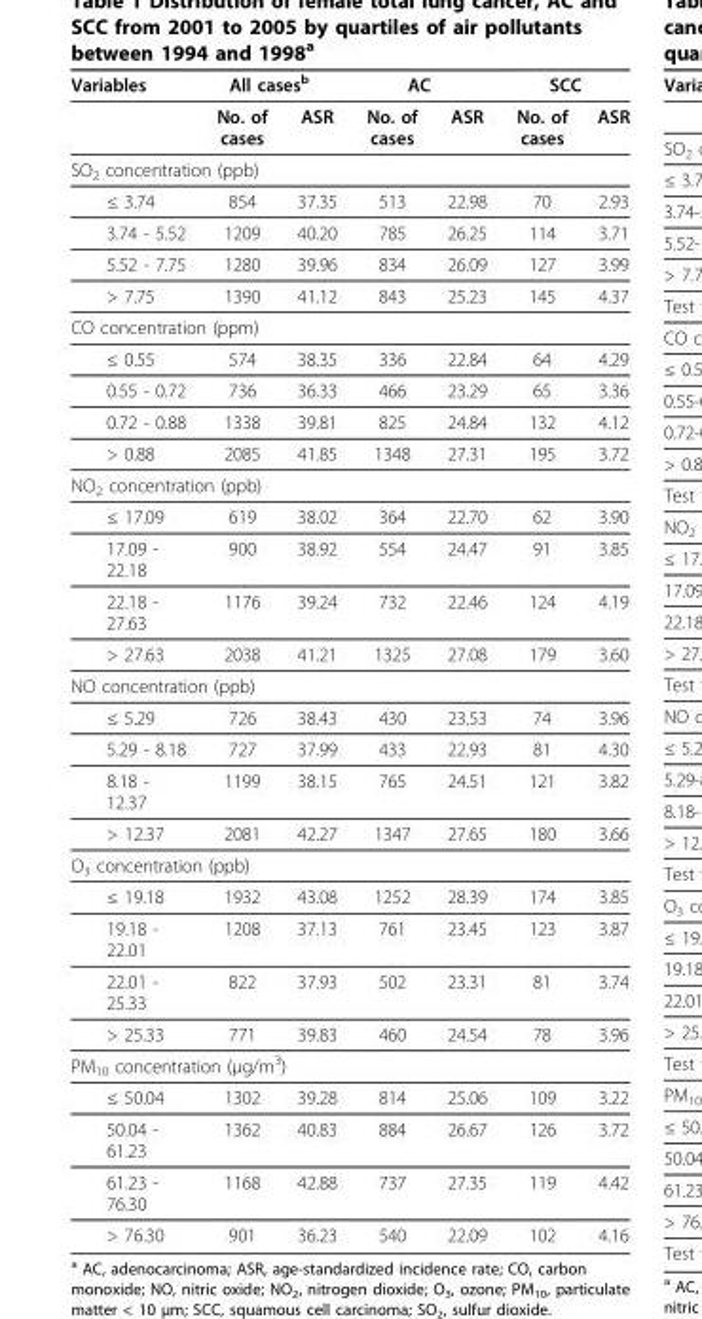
<table><thead><tr><td rowspan="2">Variables</td><td colspan="2">All cases<sup>b</sup></td><td colspan="2">AC</td><td colspan="2">SCC</td></tr><tr><td>No. of cases</td><td>ASR</td><td>No. of cases</td><td>ASR</td><td>No. of cases</td><td>ASR</td></tr></thead><tbody><tr><td colspan="7">SO<sub>2</sub> concentration (ppb)</td></tr><tr><td>≤ 3.74</td><td>854</td><td>37.35</td><td>513</td><td>22.98</td><td>70</td><td>2.93</td></tr><tr><td>3.74 - 5.52</td><td>1209</td><td>40.20</td><td>785</td><td>26.25</td><td>114</td><td>3.71</td></tr><tr><td>5.52 - 7.75</td><td>1280</td><td>39.96</td><td>834</td><td>26.09</td><td>127</td><td>3.99</td></tr><tr><td>&gt; 7.75</td><td>1390</td><td>41.12</td><td>843</td><td>25.23</td><td>145</td><td>4.37</td></tr><tr><td colspan="7">CO concentration (ppm)</td></tr><tr><td>≤ 0.55</td><td>574</td><td>38.35</td><td>336</td><td>22.84</td><td>64</td><td>4.29</td></tr><tr><td>0.55 - 0.72</td><td>736</td><td>36.33</td><td>466</td><td>23.29</td><td>65</td><td>3.36</td></tr><tr><td>0.72 - 0.88</td><td>1338</td><td>39.81</td><td>825</td><td>24.84</td><td>132</td><td>4.12</td></tr><tr><td>&gt; 0.88</td><td>2085</td><td>41.85</td><td>1348</td><td>27.31</td><td>195</td><td>3.72</td></tr><tr><td colspan="7">NO<sub>2</sub> concentration (ppb)</td></tr><tr><td>≤ 17.09</td><td>619</td><td>38.02</td><td>364</td><td>22.70</td><td>62</td><td>3.90</td></tr><tr><td>17.09 - 22.18</td><td>900</td><td>38.92</td><td>554</td><td>24.47</td><td>91</td><td>3.85</td></tr><tr><td>22.18 - 27.63</td><td>1176</td><td>39.24</td><td>732</td><td>22.46</td><td>124</td><td>4.19</td></tr><tr><td>&gt; 27.63</td><td>2038</td><td>41.21</td><td>1325</td><td>27.08</td><td>179</td><td>3.60</td></tr><tr><td colspan="7">NO concentration (ppb)</td></tr><tr><td>≤ 5.29</td><td>726</td><td>38.43</td><td>430</td><td>23.53</td><td>74</td><td>3.96</td></tr><tr><td>5.29 - 8.18</td><td>727</td><td>37.99</td><td>433</td><td>22.93</td><td>81</td><td>4.30</td></tr><tr><td>8.18 - 12.37</td><td>1199</td><td>38.15</td><td>765</td><td>24.51</td><td>121</td><td>3.82</td></tr><tr><td>&gt; 12.37</td><td>2081</td><td>42.27</td><td>1347</td><td>27.65</td><td>180</td><td>3.66</td></tr><tr><td colspan="7">O<sub>3</sub> concentration (ppb)</td></tr><tr><td>≤ 19.18</td><td>1932</td><td>43.08</td><td>1252</td><td>28.39</td><td>174</td><td>3.85</td></tr><tr><td>19.18 - 22.01</td><td>1208</td><td>37.13</td><td>761</td><td>23.45</td><td>123</td><td>3.87</td></tr><tr><td>22.01 - 25.33</td><td>822</td><td>37.93</td><td>502</td><td>23.31</td><td>81</td><td>3.74</td></tr><tr><td>&gt; 25.33</td><td>771</td><td>39.83</td><td>460</td><td>24.54</td><td>78</td><td>3.96</td></tr><tr><td colspan="7">PM<sub>10</sub> concentration (μg/m<sup>3</sup>)</td></tr><tr><td>≤ 50.04</td><td>1302</td><td>39.28</td><td>814</td><td>25.06</td><td>109</td><td>3.22</td></tr><tr><td>50.04 - 61.23</td><td>1362</td><td>40.83</td><td>884</td><td>26.67</td><td>126</td><td>3.72</td></tr><tr><td>61.23 - 76.30</td><td>1168</td><td>42.88</td><td>737</td><td>27.35</td><td>119</td><td>4.42</td></tr><tr><td>&gt; 76.30</td><td>901</td><td>36.23</td><td>540</td><td>22.09</td><td>102</td><td>4.16</td></tr></tbody></table>